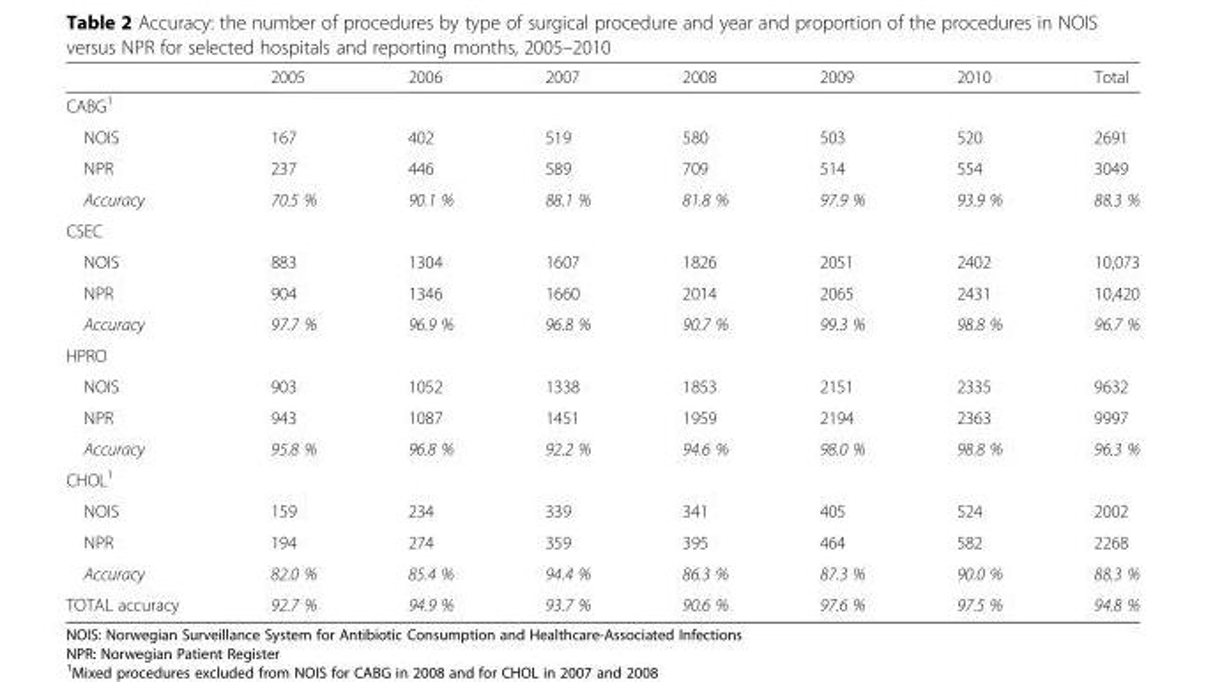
<table><thead><tr><td></td><td>2005</td><td>2006</td><td>2007</td><td>2008</td><td>2009</td><td>2010</td><td>Total</td></tr></thead><tbody><tr><td colspan="8">CABG<sup>1</sup></td></tr><tr><td>NOIS</td><td>167</td><td>402</td><td>519</td><td>580</td><td>503</td><td>520</td><td>2691</td></tr><tr><td>NPR</td><td>237</td><td>446</td><td>589</td><td>709</td><td>514</td><td>554</td><td>3049</td></tr><tr><td>Accuracy</td><td>70.5 %</td><td>90.1 %</td><td>88.1 %</td><td>81.8 %</td><td>97.9 %</td><td>93.9 %</td><td>88.3 %</td></tr><tr><td colspan="8">CSEC</td></tr><tr><td>NOIS</td><td>883</td><td>1304</td><td>1607</td><td>1826</td><td>2051</td><td>2402</td><td>10,073</td></tr><tr><td>NPR</td><td>904</td><td>1346</td><td>1660</td><td>2014</td><td>2065</td><td>2431</td><td>10,420</td></tr><tr><td>Accuracy</td><td>97.7 %</td><td>96.9 %</td><td>96.8 %</td><td>90.7 %</td><td>99.3 %</td><td>98.8 %</td><td>96.7 %</td></tr><tr><td colspan="8">HPRO</td></tr><tr><td>NOIS</td><td>903</td><td>1052</td><td>1338</td><td>1853</td><td>2151</td><td>2335</td><td>9632</td></tr><tr><td>NPR</td><td>943</td><td>1087</td><td>1451</td><td>1959</td><td>2194</td><td>2363</td><td>9997</td></tr><tr><td>Accuracy</td><td>95.8 %</td><td>96.8 %</td><td>92.2 %</td><td>94.6 %</td><td>98.0 %</td><td>98.8 %</td><td>96.3 %</td></tr><tr><td colspan="8">CHOL<sup>1</sup></td></tr><tr><td>NOIS</td><td>159</td><td>234</td><td>339</td><td>341</td><td>405</td><td>524</td><td>2002</td></tr><tr><td>NPR</td><td>194</td><td>274</td><td>359</td><td>395</td><td>464</td><td>582</td><td>2268</td></tr><tr><td>Accuracy</td><td>82.0 %</td><td>85.4 %</td><td>94.4 %</td><td>86.3 %</td><td>87.3 %</td><td>90.0 %</td><td>88.3 %</td></tr><tr><td>TOTAL accuracy</td><td>92.7 %</td><td>94.9 %</td><td>93.7 %</td><td>90.6 %</td><td>97.6 %</td><td>97.5 %</td><td>94.8 %</td></tr></tbody></table>